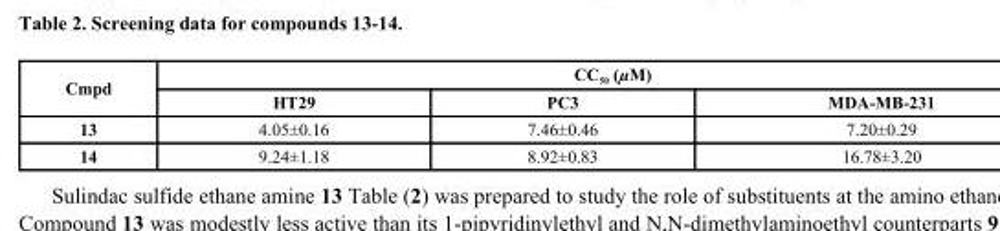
<table><thead><tr><td rowspan="2">Cmpd</td><td colspan="3">CC<sub>50</sub> (µM)</td></tr><tr><td>HT29</td><td>PC3</td><td>MDA-MB-231</td></tr></thead><tbody><tr><td>13</td><td>4.05±0.16</td><td>7.46±0.46</td><td>7.20±0.29</td></tr><tr><td>14</td><td>9.24±1.18</td><td>8.92±0.83</td><td>16.78±3.20</td></tr></tbody></table>